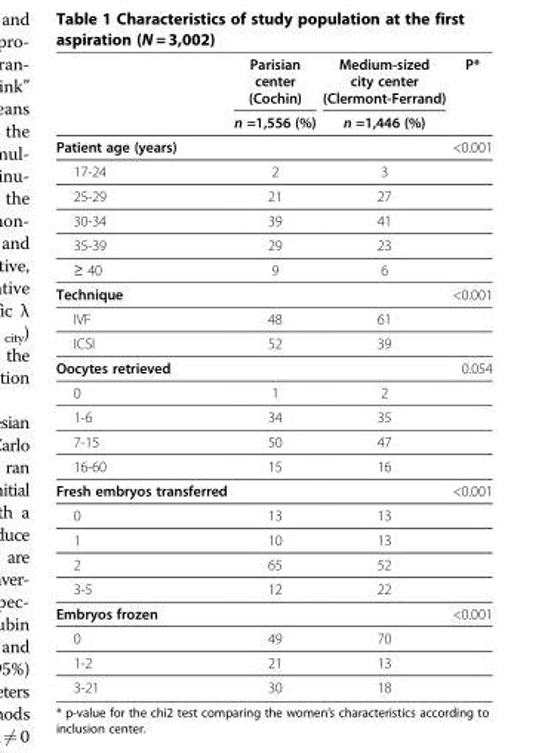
<table><thead><tr><td rowspan="2"></td><td rowspan="2">Parisian center (Cochin) n =1,556 (%)</td><td rowspan="2">Medium-sized city center (Clermont-Ferrand) n =1,446 (%)</td><td rowspan="2">P*</td></tr><tr></tr></thead><tbody><tr><td>Patient age (years)</td><td></td><td></td><td>&lt;0.001</td></tr><tr><td>17-24</td><td>2</td><td>3</td><td></td></tr><tr><td>25-29</td><td>21</td><td>27</td><td></td></tr><tr><td>30-34</td><td>39</td><td>41</td><td></td></tr><tr><td>35-39</td><td>29</td><td>23</td><td></td></tr><tr><td>≥ 40</td><td>9</td><td>6</td><td></td></tr><tr><td>Technique</td><td></td><td></td><td>&lt;0.001</td></tr><tr><td>IVF</td><td>48</td><td>61</td><td></td></tr><tr><td>ICSI</td><td>52</td><td>39</td><td></td></tr><tr><td>Oocytes retrieved</td><td></td><td></td><td>0.054</td></tr><tr><td>0</td><td>1</td><td>2</td><td></td></tr><tr><td>1-6</td><td>34</td><td>35</td><td></td></tr><tr><td>7-15</td><td>50</td><td>47</td><td></td></tr><tr><td>16-60</td><td>15</td><td>16</td><td></td></tr><tr><td>Fresh embryos transferred</td><td></td><td></td><td>&lt;0.001</td></tr><tr><td>0</td><td>13</td><td>13</td><td></td></tr><tr><td>1</td><td>10</td><td>13</td><td></td></tr><tr><td>2</td><td>65</td><td>52</td><td></td></tr><tr><td>3-5</td><td>12</td><td>22</td><td></td></tr><tr><td>Embryos frozen</td><td></td><td></td><td>&lt;0.001</td></tr><tr><td>0</td><td>49</td><td>70</td><td></td></tr><tr><td>1-2</td><td>21</td><td>13</td><td></td></tr><tr><td>3-21</td><td>30</td><td>18</td><td></td></tr></tbody></table>